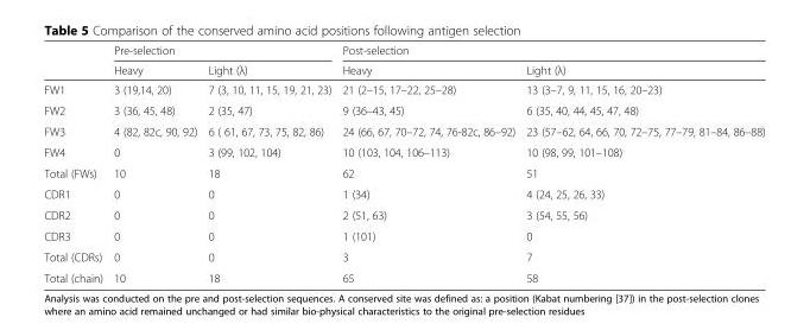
<table><thead><tr><td rowspan="2"></td><td colspan="2">Pre-selection</td><td colspan="2">Post-selection</td></tr><tr><td>Heavy</td><td>Light (λ)</td><td>Heavy</td><td>Light (λ)</td></tr></thead><tbody><tr><td>FW1</td><td>3 (19,14, 20)</td><td>7 (3, 10, 11, 15, 19, 21, 23)</td><td>21 (2–15, 17–22, 25–28)</td><td>13 (3–7, 9, 11, 15, 16, 20–23)</td></tr><tr><td>FW2</td><td>3 (36, 45, 48)</td><td>2 (35, 47)</td><td>9 (36–43, 45)</td><td>6 (35, 40, 44, 45, 47, 48)</td></tr><tr><td>FW3</td><td>4 (82, 82c, 90, 92)</td><td>6 ( 61, 67, 73, 75, 82, 86)</td><td>24 (66, 67, 70–72, 74, 76-82c, 86–92)</td><td>23 (57–62, 64, 66, 70, 72–75, 77–79, 81–84, 86–88)</td></tr><tr><td>FW4</td><td>0</td><td>3 (99, 102, 104)</td><td>10 (103, 104, 106–113)</td><td>10 (98, 99, 101–108)</td></tr><tr><td>Total (FWs)</td><td>10</td><td>18</td><td>62</td><td>51</td></tr><tr><td>CDR1</td><td>0</td><td>0</td><td>1 (34)</td><td>4 (24, 25, 26, 33)</td></tr><tr><td>CDR2</td><td>0</td><td>0</td><td>2 (51, 63)</td><td>3 (54, 55, 56)</td></tr><tr><td>CDR3</td><td>0</td><td>0</td><td>1 (101)</td><td>0</td></tr><tr><td>Total (CDRs)</td><td>0</td><td>0</td><td>3</td><td>7</td></tr><tr><td>Total (chain)</td><td>10</td><td>18</td><td>65</td><td>58</td></tr></tbody></table>